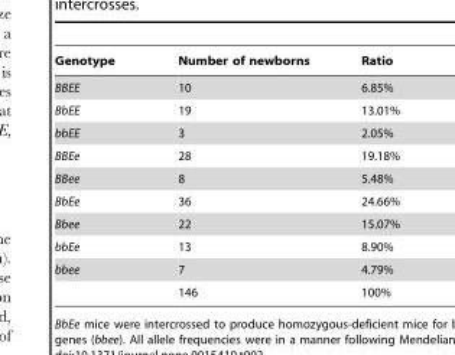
<table><thead><tr><td>Genotype</td><td>Number of newborns</td><td>Ratio</td></tr></thead><tbody><tr><td>BBEE</td><td>10</td><td>6.85%</td></tr><tr><td>BbEE</td><td>19</td><td>13.01%</td></tr><tr><td>bbEE</td><td>3</td><td>2.05%</td></tr><tr><td>BBEe</td><td>28</td><td>19.18%</td></tr><tr><td>BBee</td><td>8</td><td>5.48%</td></tr><tr><td>BbEe</td><td>36</td><td>24.66%</td></tr><tr><td>Bbee</td><td>22</td><td>15.07%</td></tr><tr><td>bbEe</td><td>13</td><td>8.90%</td></tr><tr><td rowspan="2">bbee</td><td>7</td><td>4.79%</td></tr><tr><td>146</td><td>100%</td></tr></tbody></table>